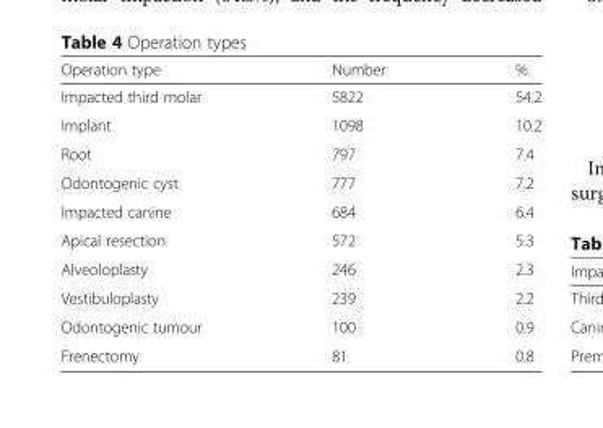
<table><thead><tr><td>Operation type</td><td>Number</td><td>%</td></tr></thead><tbody><tr><td>Impacted third molar</td><td>5822</td><td>54.2</td></tr><tr><td>Implant</td><td>1098</td><td>10.2</td></tr><tr><td>Root</td><td>797</td><td>7.4</td></tr><tr><td>Odontogenic cyst</td><td>777</td><td>7.2</td></tr><tr><td>Impacted canine</td><td>684</td><td>6.4</td></tr><tr><td>Apical resection</td><td>572</td><td>5.3</td></tr><tr><td>Alveoloplasty</td><td>246</td><td>2.3</td></tr><tr><td>Vestibuloplasty</td><td>239</td><td>2.2</td></tr><tr><td>Odontogenic tumour</td><td>100</td><td>0.9</td></tr><tr><td>Frenectomy</td><td>81</td><td>0.8</td></tr></tbody></table>